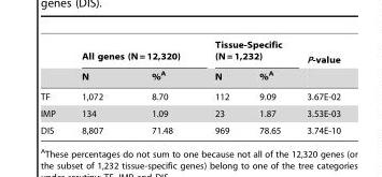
<table><thead><tr><td rowspan="2"></td><td colspan="2">All genes (N = 12,320)</td><td colspan="2">Tissue-Specific (N = 1,232)</td><td rowspan="2">P-value</td></tr><tr><td>N</td><td>%<sup>A</sup></td><td>N</td><td>%<sup>A</sup></td></tr></thead><tbody><tr><td>TF</td><td>1,072</td><td>8.70</td><td>112</td><td>9.09</td><td>3.67E-02</td></tr><tr><td>IMP</td><td>134</td><td>1.09</td><td>23</td><td>1.87</td><td>3.53E-03</td></tr><tr><td>DIS</td><td>8,807</td><td>71.48</td><td>969</td><td>78.65</td><td>3.74E-10</td></tr></tbody></table>